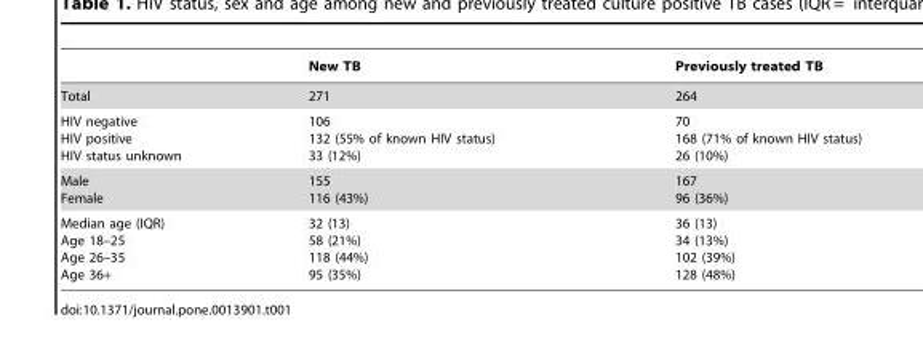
<table><thead><tr><td></td><td>New TB</td><td>Previously treated TB</td></tr></thead><tbody><tr><td>Total</td><td>271</td><td>264</td></tr><tr><td>HIV negative HIV positive HIV status unknown</td><td>106 132 (55% of known HIV status) 33 (12%)</td><td>70 168 (71% of known HIV status) 26 (10%)</td></tr><tr><td>Male Female</td><td>155 116 (43%)</td><td>167 96 (36%)</td></tr><tr><td>Median age (IQR) Age 18–25 Age 26–35 Age 36+</td><td>32 (13) 58 (21%) 118 (44%) 95 (35%)</td><td>36 (13) 34 (13%) 102 (39%) 128 (48%)</td></tr></tbody></table>